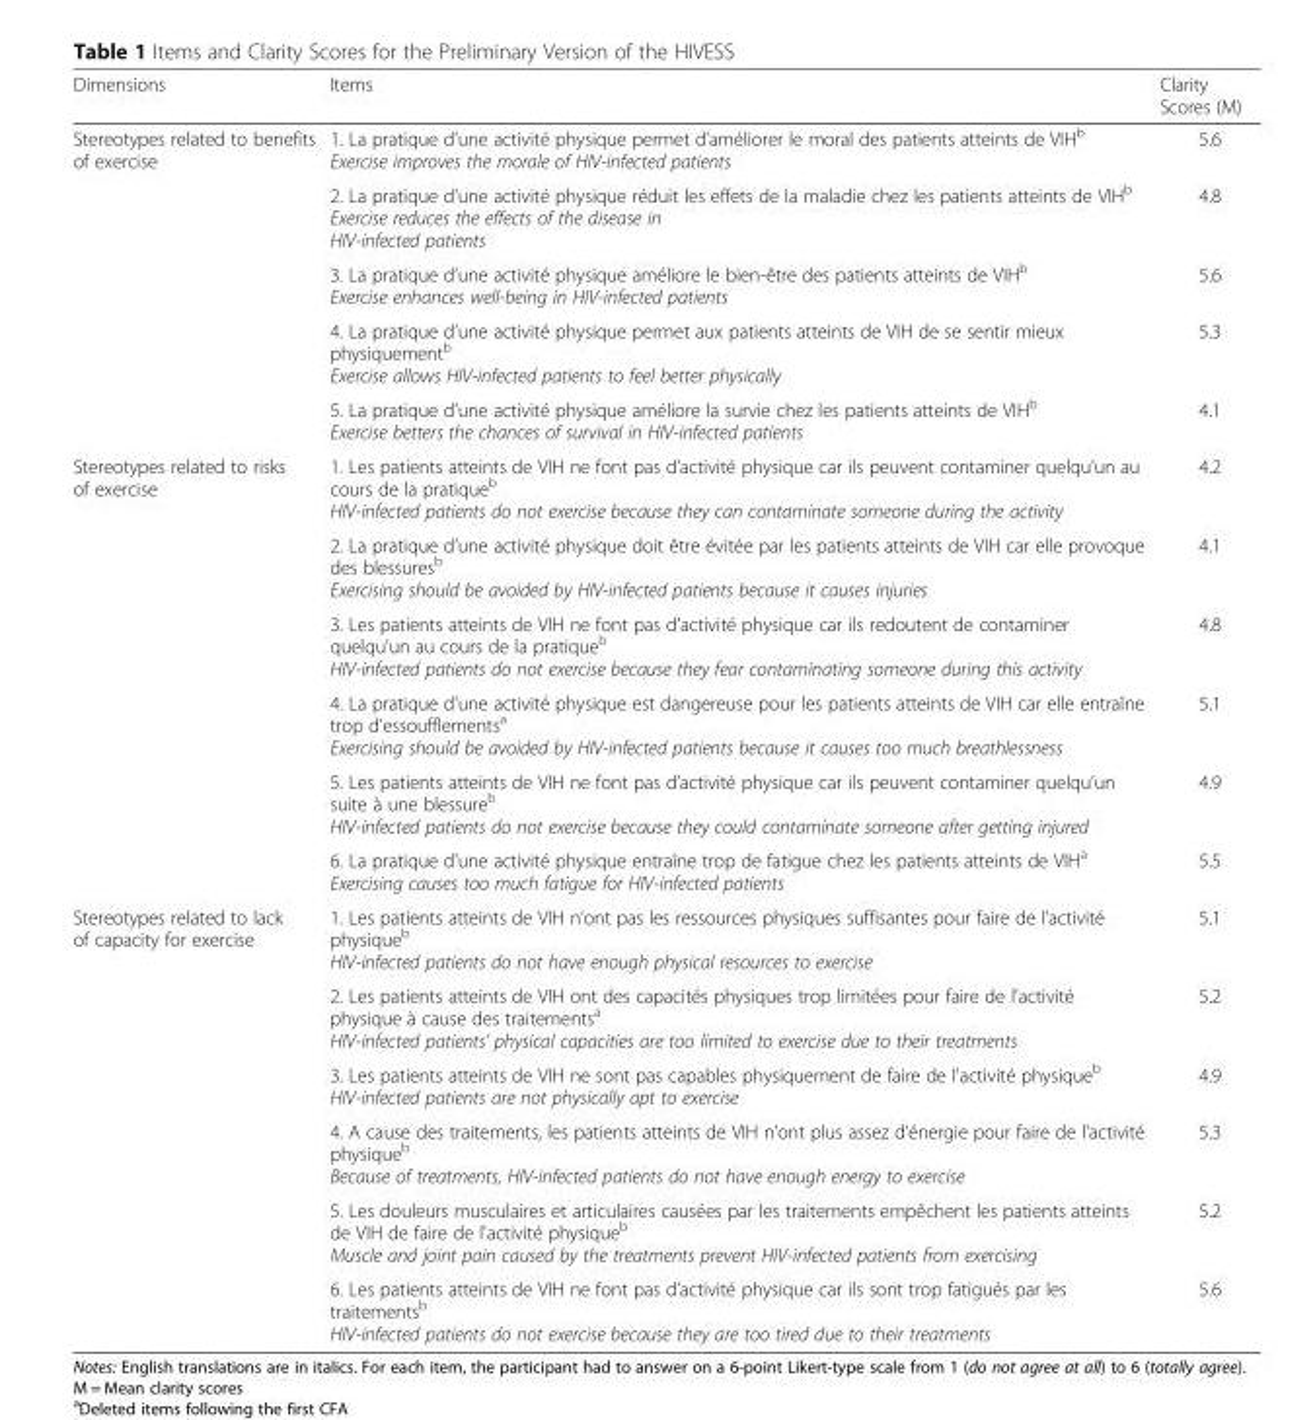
<table><thead><tr><td>Dimensions</td><td>Items</td><td>Clarity Scores (M)</td></tr></thead><tbody><tr><td rowspan="5">Stereotypes related to benefits of exercise</td><td>1. La pratique d’une activité physique permet d’améliorer le moral des patients atteints de VIH<sup>b</sup> Exercise improves the morale of HIV-infected patients</td><td>5.6</td></tr><tr><td>2. La pratique d’une activité physique réduit les effets de la maladie chez les patients atteints de VIH<sup>b</sup> Exercise reduces the effects of the disease in HIV-infected patients</td><td>4.8</td></tr><tr><td>3. La pratique d’une activité physique améliore le bien-être des patients atteints de VIH<sup>b</sup> Exercise enhances well-being in HIV-infected patients</td><td>5.6</td></tr><tr><td>4. La pratique d’une activité physique permet aux patients atteints de VIH de se sentir mieux physiquement<sup>b</sup> Exercise allows HIV-infected patients to feel better physically</td><td>5.3</td></tr><tr><td>5. La pratique d’une activité physique améliore la survie chez les patients atteints de VIH<sup>b</sup> Exercise betters the chances of survival in HIV-infected patients</td><td>4.1</td></tr><tr><td rowspan="6">Stereotypes related to risks of exercise</td><td>1. Les patients atteints de VIH ne font pas d’activité physique car ils peuvent contaminer quelqu’un au cours de la pratique<sup>b</sup> HIV-infected patients do not exercise because they can contaminate someone during the activity</td><td>4.2</td></tr><tr><td>2. La pratique d’une activité physique doit être évitée par les patients atteints de VIH car elle provoque des blessures<sup>b</sup> Exercising should be avoided by HIV-infected patients because it causes injuries</td><td>4.1</td></tr><tr><td>3. Les patients atteints de VIH ne font pas d&#x27;activité physique car ils redoutent de contaminer quelqu&#x27;un au cours de la pratique<sup>b</sup> HIV-infected patients do not exercise because they fear contaminating someone during this activity</td><td>4.8</td></tr><tr><td>4. La pratique d’une activité physique est dangereuse pour les patients atteints de VIH car elle entraîne trop d’essoufflements<sup>a</sup> Exercising should be avoided by HIV-infected patients because it causes too much breathlessness</td><td>5.1</td></tr><tr><td>5. Les patients atteints de VIH ne font pas d’activité physique car ils peuvent contaminer quelqu’un suite à une blessure<sup>b</sup> HIV-infected patients do not exercise because they could contaminate someone after getting injured</td><td>4.9</td></tr><tr><td>6. La pratique d’une activité physique entraîne trop de fatigue chez les patients atteints de VIH<sup>a</sup> Exercising causes too much fatigue for HIV-infected patients</td><td>5.5</td></tr><tr><td rowspan="6">Stereotypes related to lack of capacity for exercise</td><td>1. Les patients atteints de VIH n’ont pas les ressources physiques suffisantes pour faire de l’activité physique<sup>b</sup> HIV-infected patients do not have enough physical resources to exercise</td><td>5.1</td></tr><tr><td>2. Les patients atteints de VIH ont des capacités physiques trop limitées pour faire de l&#x27;activité physique à cause des traitements<sup>a</sup> HIV-infected patients’ physical capacities are too limited to exercise due to their treatments</td><td>5.2</td></tr><tr><td>3. Les patients atteints de VIH ne sont pas capables physiquement de faire de l&#x27;activité physique<sup>b</sup> HIV-infected patients are not physically apt to exercise</td><td>4.9</td></tr><tr><td>4. A cause des traitements, les patients atteints de VIH n’ont plus assez d’énergie pour faire de l&#x27;activité physique<sup>b</sup> Because of treatments, HIV-infected patients do not have enough energy to exercise</td><td>5.3</td></tr><tr><td>5. Les douleurs musculaires et articulaires causées par les traitements empêchent les patients atteints de VIH de faire de l&#x27;activité physique<sup>b</sup> Muscle and joint pain caused by the treatments prevent HIV-infected patients from exercising</td><td>5.2</td></tr><tr><td>6. Les patients atteints de VIH ne font pas d’activité physique car ils sont trop fatigués par les traitements<sup>b</sup> HIV-infected patients do not exercise because they are too tired due to their treatments</td><td>5.6</td></tr></tbody></table>